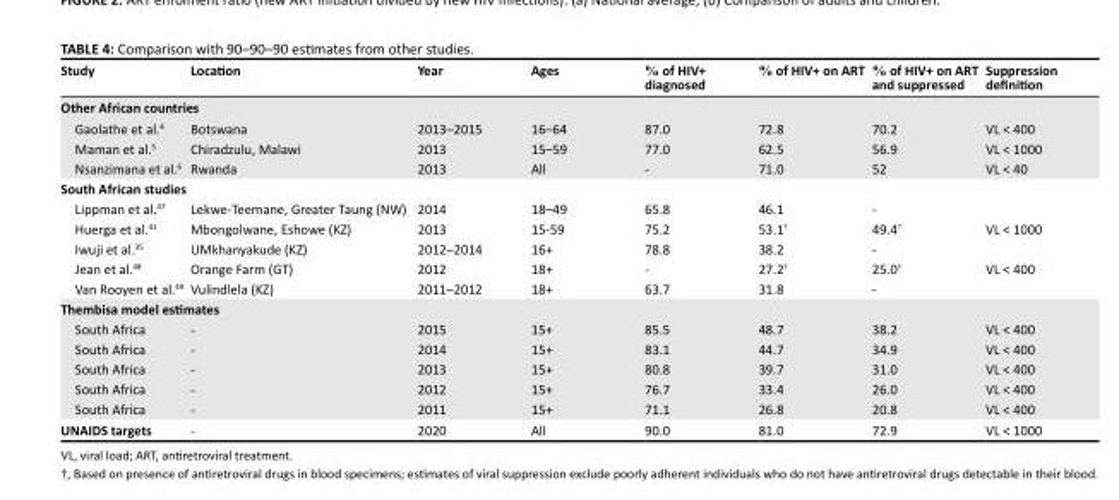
<table><thead><tr><td>Study</td><td>Location</td><td>Year</td><td>Ages</td><td>% of HIV+ diagnosed</td><td>% of HIV+ on ART</td><td>% of HIV+ on ART and suppressed</td><td>Suppression definition</td></tr></thead><tbody><tr><td colspan="8">Other African countries</td></tr><tr><td>Gaolathe et al.<sup>4</sup></td><td>Botswana</td><td>2013–2015</td><td>16–64</td><td>87.0</td><td>72.8</td><td>70.2</td><td>VL &lt; 400</td></tr><tr><td>Maman et al.<sup>5</sup></td><td>Chiradzulu, Malawi</td><td>2013</td><td>15–59</td><td>77.0</td><td>62.5</td><td>56.9</td><td>VL &lt; 1000</td></tr><tr><td>Nsanzimana et al.<sup>6</sup></td><td>Rwanda</td><td>2013</td><td>All</td><td>-</td><td>71.0</td><td>52</td><td>VL &lt; 40</td></tr><tr><td colspan="8">South African studies</td></tr><tr><td>Lippman et al.<sup>47</sup></td><td>Lekwe-Teemane, Greater Taung (NW)</td><td>2014</td><td>18–49</td><td>65.8</td><td>46.1</td><td>-</td><td></td></tr><tr><td>Huerga et al.<sup>31</sup></td><td>Mbongolwane, Eshowe (KZ)</td><td>2013</td><td>15-59</td><td>75.2</td><td>53.1†</td><td>49.4†</td><td>VL &lt; 1000</td></tr><tr><td>Iwuji et al.<sup>35</sup></td><td>UMkhanyakude (KZ)</td><td>2012–2014</td><td>16+</td><td>78.8</td><td>38.2</td><td>-</td><td></td></tr><tr><td>Jean et al.<sup>48</sup></td><td>Orange Farm (GT)</td><td>2012</td><td>18+</td><td>-</td><td>27.2†</td><td>25.0†</td><td>VL &lt; 400</td></tr><tr><td>Van Rooyen et al.<sup>49</sup></td><td>Vulindlela (KZ)</td><td>2011–2012</td><td>18+</td><td>63.7</td><td>31.8</td><td>-</td><td></td></tr><tr><td colspan="8">Thembisa model estimates</td></tr><tr><td>South Africa</td><td>-</td><td>2015</td><td>15+</td><td>85.5</td><td>48.7</td><td>38.2</td><td>VL &lt; 400</td></tr><tr><td>South Africa</td><td>-</td><td>2014</td><td>15+</td><td>83.1</td><td>44.7</td><td>34.9</td><td>VL &lt; 400</td></tr><tr><td>South Africa</td><td>-</td><td>2013</td><td>15+</td><td>80.8</td><td>39.7</td><td>31.0</td><td>VL &lt; 400</td></tr><tr><td>South Africa</td><td>-</td><td>2012</td><td>15+</td><td>76.7</td><td>33.4</td><td>26.0</td><td>VL &lt; 400</td></tr><tr><td>South Africa</td><td>-</td><td>2011</td><td>15+</td><td>71.1</td><td>26.8</td><td>20.8</td><td>VL &lt; 400</td></tr><tr><td>UNAIDS targets</td><td>-</td><td>2020</td><td>All</td><td>90.0</td><td>81.0</td><td>72.9</td><td>VL &lt; 1000</td></tr></tbody></table>